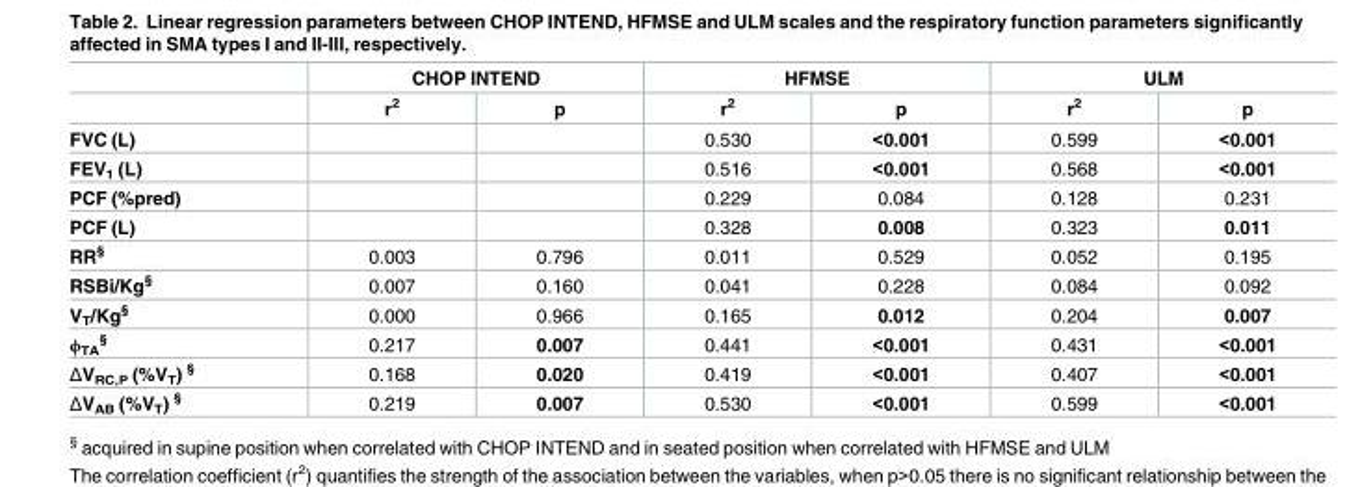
<table><thead><tr><td rowspan="2"></td><td colspan="2">CHOP INTEND</td><td colspan="2">HFMSE</td><td colspan="2">ULM</td></tr><tr><td>r<sup>2</sup></td><td>p</td><td>r<sup>2</sup></td><td>p</td><td>r<sup>2</sup></td><td>p</td></tr></thead><tbody><tr><td>FVC (L)</td><td></td><td></td><td>0.530</td><td>&lt;0.001</td><td>0.599</td><td>&lt;0.001</td></tr><tr><td>FEV<sub>1</sub> (L)</td><td></td><td></td><td>0.516</td><td>&lt;0.001</td><td>0.568</td><td>&lt;0.001</td></tr><tr><td>PCF (%pred)</td><td></td><td></td><td>0.229</td><td>0.084</td><td>0.128</td><td>0.231</td></tr><tr><td>PCF (L)</td><td></td><td></td><td>0.328</td><td>0.008</td><td>0.323</td><td>0.011</td></tr><tr><td>RR<sup>§</sup></td><td>0.003</td><td>0.796</td><td>0.011</td><td>0.529</td><td>0.052</td><td>0.195</td></tr><tr><td>RSBi/Kg<sup>§</sup></td><td>0.007</td><td>0.160</td><td>0.041</td><td>0.228</td><td>0.084</td><td>0.092</td></tr><tr><td>V<sub>T</sub>/Kg<sup>§</sup></td><td>0.000</td><td>0.966</td><td>0.165</td><td>0.012</td><td>0.204</td><td>0.007</td></tr><tr><td>ϕ<sub>TA</sub> <sup>§</sup></td><td>0.217</td><td>0.007</td><td>0.441</td><td>&lt;0.001</td><td>0.431</td><td>&lt;0.001</td></tr><tr><td>ΔV<sub>RC,P</sub> (%V<sub>T</sub>) <sup>§</sup></td><td>0.168</td><td>0.020</td><td>0.419</td><td>&lt;0.001</td><td>0.407</td><td>&lt;0.001</td></tr><tr><td>ΔV<sub>AB</sub> (%V<sub>T</sub>) <sup>§</sup></td><td>0.219</td><td>0.007</td><td>0.530</td><td>&lt;0.001</td><td>0.599</td><td>&lt;0.001</td></tr></tbody></table>